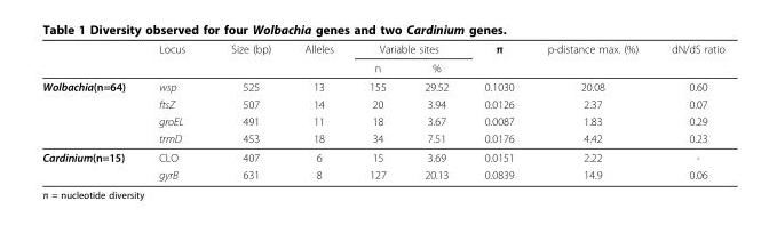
<table><thead><tr><td rowspan="2"></td><td rowspan="2">Locus</td><td rowspan="2">Size (bp)</td><td rowspan="2">Alleles</td><td colspan="2">Variable sites</td><td rowspan="2">π</td><td rowspan="2">p-distance max. (%)</td><td rowspan="2">dN/dS ratio</td></tr><tr><td>n</td><td>%</td></tr></thead><tbody><tr><td rowspan="4">Wolbachia(n=64)</td><td>wsp</td><td>525</td><td>13</td><td>155</td><td>29.52</td><td>0.1030</td><td>20.08</td><td>0.60</td></tr><tr><td>ftsZ</td><td>507</td><td>14</td><td>20</td><td>3.94</td><td>0.0126</td><td>2.37</td><td>0.07</td></tr><tr><td>groEL</td><td>491</td><td>11</td><td>18</td><td>3.67</td><td>0.0087</td><td>1.83</td><td>0.29</td></tr><tr><td>trmD</td><td>453</td><td>18</td><td>34</td><td>7.51</td><td>0.0176</td><td>4.42</td><td>0.23</td></tr><tr><td rowspan="2">Cardinium(n=15)</td><td>CLO</td><td>407</td><td>6</td><td>15</td><td>3.69</td><td>0.0151</td><td>2.22</td><td>-</td></tr><tr><td>gyrB</td><td>631</td><td>8</td><td>127</td><td>20.13</td><td>0.0839</td><td>14.9</td><td>0.06</td></tr></tbody></table>